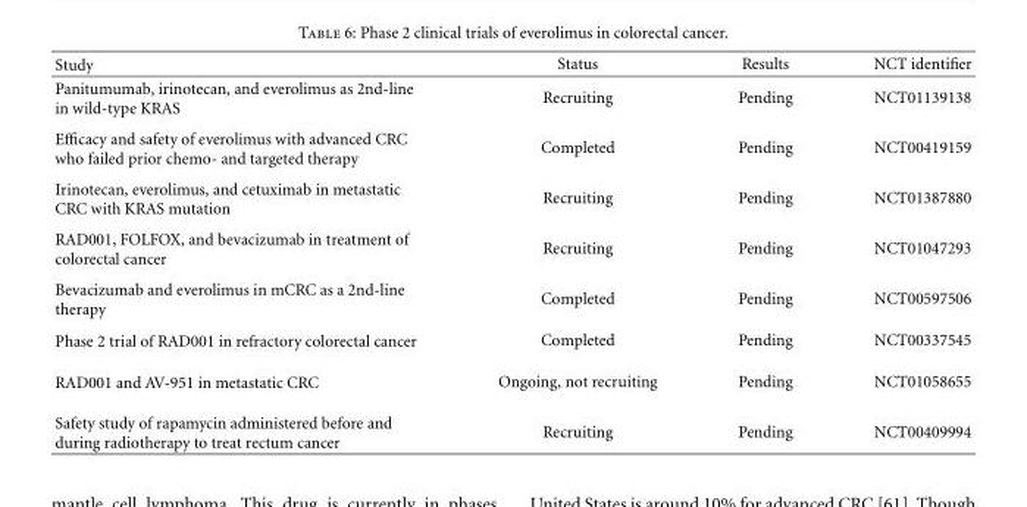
<table><thead><tr><td>Study</td><td>Status</td><td>Results</td><td>NCT identifier</td></tr></thead><tbody><tr><td>Panitumumab, irinotecan, and everolimus as 2nd-line in wild-type KRAS</td><td>Recruiting</td><td>Pending</td><td>NCT01139138</td></tr><tr><td>Efficacy and safety of everolimus with advanced CRC who failed prior chemo- and targeted therapy</td><td>Completed</td><td>Pending</td><td>NCT00419159</td></tr><tr><td>Irinotecan, everolimus, and cetuximab in metastatic CRC with KRAS mutation</td><td>Recruiting</td><td>Pending</td><td>NCT01387880</td></tr><tr><td>RAD001, FOLFOX, and bevacizumab in treatment of colorectal cancer</td><td>Recruiting</td><td>Pending</td><td>NCT01047293</td></tr><tr><td>Bevacizumab and everolimus in mCRC as a 2nd-line therapy</td><td>Completed</td><td>Pending</td><td>NCT00597506</td></tr><tr><td>Phase 2 trial of RAD001 in refractory colorectal cancer</td><td>Completed</td><td>Pending</td><td>NCT00337545</td></tr><tr><td>RAD001 and AV-951 in metastatic CRC</td><td>Ongoing, not recruiting</td><td>Pending</td><td>NCT01058655</td></tr><tr><td>Safety study of rapamycin administered before and during radiotherapy to treat rectum cancer</td><td>Recruiting</td><td>Pending</td><td>NCT00409994</td></tr></tbody></table>